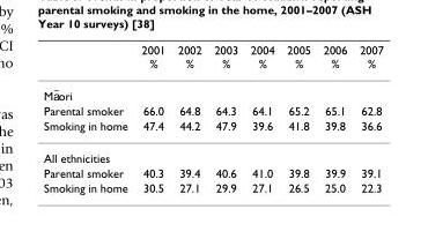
<table><thead><tr><td></td><td>2001 %</td><td>2002 %</td><td>2003 %</td><td>2004 %</td><td>2005 %</td><td>2006 %</td><td>2007 %</td></tr></thead><tbody><tr><td colspan="8">Ma¯ori</td></tr><tr><td>Parental smoker</td><td>66.0</td><td>64.8</td><td>64.3</td><td>64.1</td><td>65.2</td><td>65.1</td><td>62.8</td></tr><tr><td>Smoking in home</td><td>47.4</td><td>44.2</td><td>47.9</td><td>39.6</td><td>41.8</td><td>39.8</td><td>36.6</td></tr><tr><td colspan="8">All ethnicities</td></tr><tr><td>Parental smoker</td><td>40.3</td><td>39.4</td><td>40.6</td><td>41.0</td><td>39.8</td><td>39.9</td><td>39.1</td></tr><tr><td>Smoking in home</td><td>30.5</td><td>27.1</td><td>29.9</td><td>27.1</td><td>26.5</td><td>25.0</td><td>22.3</td></tr></tbody></table>